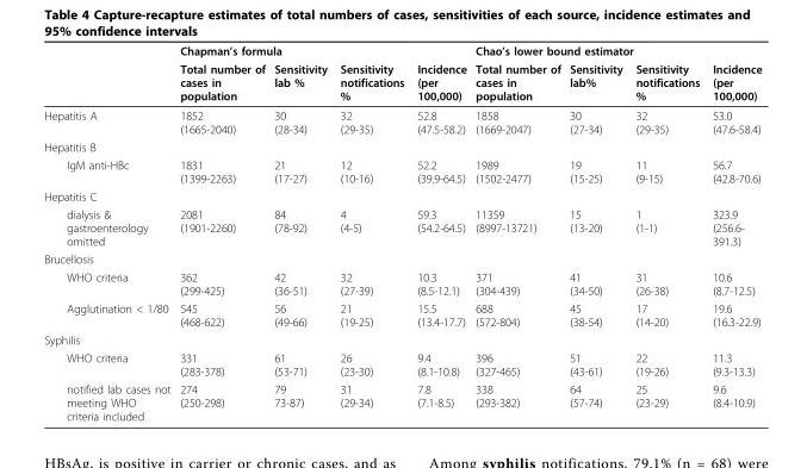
<table><thead><tr><td rowspan="2"></td><td colspan="4">Chapman’s formula</td><td colspan="4">Chao’s lower bound estimator</td></tr><tr><td>Total number of cases in population</td><td>Sensitivity lab %</td><td>Sensitivity notifications %</td><td>Incidence (per 100,000)</td><td>Total number of cases in population</td><td>Sensitivity lab%</td><td>Sensitivity notifications %</td><td>Incidence (per 100,000)</td></tr></thead><tbody><tr><td>Hepatitis A</td><td>1852 (1665-2040)</td><td>30 (28-34)</td><td>32 (29-35)</td><td>52.8 (47.5-58.2)</td><td>1858 (1669-2047)</td><td>30 (27-34)</td><td>32 (29-35)</td><td>53.0 (47.6-58.4)</td></tr><tr><td colspan="9">Hepatitis B</td></tr><tr><td>IgM anti-HBc</td><td>1831 (1399-2263)</td><td>21 (17-27)</td><td>12 (10-16)</td><td>52.2 (39.9-64.5)</td><td>1989 (1502-2477)</td><td>19 (15-25)</td><td>11 (9-15)</td><td>56.7 (42.8-70.6)</td></tr><tr><td colspan="9">Hepatitis C</td></tr><tr><td>dialysis &amp; gastroenterology omitted</td><td>2081 (1901-2260)</td><td>84 (78-92)</td><td>4 (4-5)</td><td>59.3 (54.2-64.5)</td><td>11359 (8997-13721)</td><td>15 (13-20)</td><td>1 (1-1)</td><td>323.9 (256.6- 391.3)</td></tr><tr><td colspan="9">Brucellosis</td></tr><tr><td>WHO criteria</td><td>362 (299-425)</td><td>42 (36-51)</td><td>32 (27-39)</td><td>10.3 (8.5-12.1)</td><td>371 (304-439)</td><td>41 (34-50)</td><td>31 (26-38)</td><td>10.6 (8.7-12.5)</td></tr><tr><td>Agglutination &lt; 1/80</td><td>545 (468-622)</td><td>56 (49-66)</td><td>21 (19-25)</td><td>15.5 (13.4-17.7)</td><td>688 (572-804)</td><td>45 (38-54)</td><td>17 (14-20)</td><td>19.6 (16.3-22.9)</td></tr><tr><td colspan="9">Syphilis</td></tr><tr><td>WHO criteria</td><td>331 (283-378)</td><td>61 (53-71)</td><td>26 (23-30)</td><td>9.4 (8.1-10.8)</td><td>396 (327-465)</td><td>51 (43-61)</td><td>22 (19-26)</td><td>11.3 (9.3-13.3)</td></tr><tr><td>notified lab cases not meeting WHO criteria included</td><td>274 (250-298)</td><td>79 73-87)</td><td>31 (29-34)</td><td>7.8 (7.1-8.5)</td><td>338 (293-382)</td><td>64 (57-74)</td><td>25 (23-29)</td><td>9.6 (8.4-10.9)</td></tr></tbody></table>